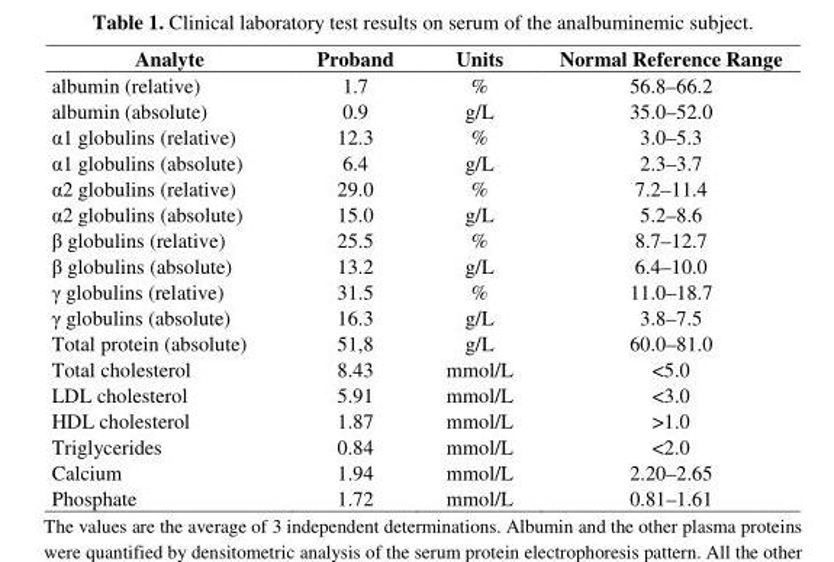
<table><thead><tr><td>Analyte</td><td>Proband</td><td>Units</td><td>Normal Reference Range</td></tr></thead><tbody><tr><td>albumin (relative)</td><td>1.7</td><td>%</td><td>56.8–66.2</td></tr><tr><td>albumin (absolute)</td><td>0.9</td><td>g/L</td><td>35.0–52.0</td></tr><tr><td>α1 globulins (relative)</td><td>12.3</td><td>%</td><td>3.0–5.3</td></tr><tr><td>α1 globulins (absolute)</td><td>6.4</td><td>g/L</td><td>2.3–3.7</td></tr><tr><td>α2 globulins (relative)</td><td>29.0</td><td>%</td><td>7.2–11.4</td></tr><tr><td>α2 globulins (absolute)</td><td>15.0</td><td>g/L</td><td>5.2–8.6</td></tr><tr><td>β globulins (relative)</td><td>25.5</td><td>%</td><td>8.7–12.7</td></tr><tr><td>β globulins (absolute)</td><td>13.2</td><td>g/L</td><td>6.4–10.0</td></tr><tr><td>γ globulins (relative)</td><td>31.5</td><td>%</td><td>11.0–18.7</td></tr><tr><td>γ globulins (absolute)</td><td>16.3</td><td>g/L</td><td>3.8–7.5</td></tr><tr><td>Total protein (absolute)</td><td>51,8</td><td>g/L</td><td>60.0–81.0</td></tr><tr><td>Total cholesterol</td><td>8.43</td><td>mmol/L</td><td>&lt;5.0</td></tr><tr><td>LDL cholesterol</td><td>5.91</td><td>mmol/L</td><td>&lt;3.0</td></tr><tr><td>HDL cholesterol</td><td>1.87</td><td>mmol/L</td><td>&gt;1.0</td></tr><tr><td>Triglycerides</td><td>0.84</td><td>mmol/L</td><td>&lt;2.0</td></tr><tr><td>Calcium</td><td>1.94</td><td>mmol/L</td><td>2.20–2.65</td></tr><tr><td>Phosphate</td><td>1.72</td><td>mmol/L</td><td>0.81–1.61</td></tr></tbody></table>